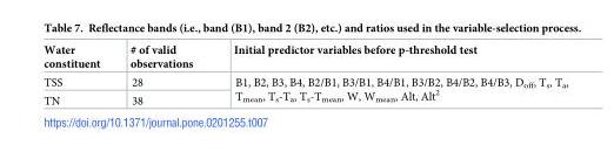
<table><thead><tr><td>Water constituent</td><td># of valid observations</td><td>Initial predictor variables before p-threshold test</td></tr></thead><tbody><tr><td>TSS</td><td>28</td><td rowspan="2">B1, B2, B3, B4, B2/B1, B3/B1, B4/B1, B3/B2, B4/B2, B4/B3, D<sub>off</sub>, T<sub>s</sub>, T<sub>a</sub>, T<sub>mean</sub>, T<sub>s</sub>-T<sub>a</sub>, T<sub>s</sub>-T<sub>mean</sub>, W, W<sub>mean</sub>, Alt, Alt<sup>2</sup></td></tr><tr><td>TN</td><td>38</td></tr></tbody></table>